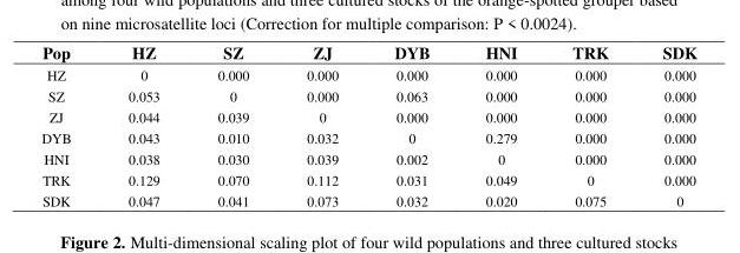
<table><thead><tr><td>Pop</td><td>HZ</td><td>SZ</td><td>ZJ</td><td>DYB</td><td>HNI</td><td>TRK</td><td>SDK</td></tr></thead><tbody><tr><td>HZ</td><td>0</td><td>0.000</td><td>0.000</td><td>0.000</td><td>0.000</td><td>0.000</td><td>0.000</td></tr><tr><td>SZ</td><td>0.053</td><td>0</td><td>0.000</td><td>0.063</td><td>0.000</td><td>0.000</td><td>0.000</td></tr><tr><td>ZJ</td><td>0.044</td><td>0.039</td><td>0</td><td>0.000</td><td>0.000</td><td>0.000</td><td>0.000</td></tr><tr><td>DYB</td><td>0.043</td><td>0.010</td><td>0.032</td><td>0</td><td>0.279</td><td>0.000</td><td>0.000</td></tr><tr><td>HNI</td><td>0.038</td><td>0.030</td><td>0.039</td><td>0.002</td><td>0</td><td>0.000</td><td>0.000</td></tr><tr><td>TRK</td><td>0.129</td><td>0.070</td><td>0.112</td><td>0.031</td><td>0.049</td><td>0</td><td>0.000</td></tr><tr><td>SDK</td><td>0.047</td><td>0.041</td><td>0.073</td><td>0.032</td><td>0.020</td><td>0.075</td><td>0</td></tr></tbody></table>